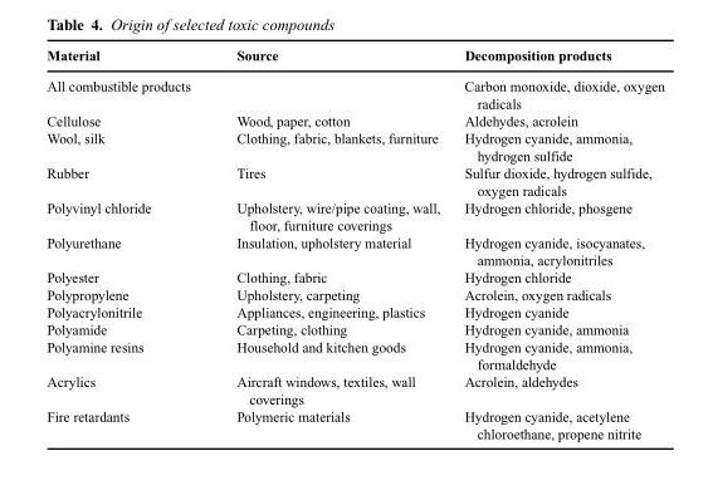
<table><thead><tr><td>Material</td><td>Source</td><td>Decomposition products</td></tr></thead><tbody><tr><td>All combustible products</td><td></td><td>Carbon monoxide, dioxide, oxygen radicals</td></tr><tr><td>Cellulose</td><td>Wood, paper, cotton</td><td>Aldehydes, acrolein</td></tr><tr><td>Wool, silk</td><td>Clothing, fabric, blankets, furniture</td><td>Hydrogen cyanide, ammonia, hydrogen sulfide</td></tr><tr><td>Rubber</td><td>Tires</td><td>Sulfur dioxide, hydrogen sulfide, oxygen radicals</td></tr><tr><td>Polyvinyl chloride</td><td>Upholstery, wire/pipe coating, wall, floor, furniture coverings</td><td>Hydrogen chloride, phosgene</td></tr><tr><td>Polyurethane</td><td>Insulation, upholstery material</td><td>Hydrogen cyanide, isocyanates, ammonia, acrylonitriles</td></tr><tr><td>Polyester</td><td>Clothing, fabric</td><td>Hydrogen chloride</td></tr><tr><td>Polypropylene</td><td>Upholstery, carpeting</td><td>Acrolein, oxygen radicals</td></tr><tr><td>Polyacrylonitrile</td><td>Appliances, engineering, plastics</td><td>Hydrogen cyanide</td></tr><tr><td>Polyamide</td><td>Carpeting, clothing</td><td>Hydrogen cyanide, ammonia</td></tr><tr><td>Polyamine resins</td><td>Household and kitchen goods</td><td>Hydrogen cyanide, ammonia, formaldehyde</td></tr><tr><td>Acrylics</td><td>Aircraft windows, textiles, wall coverings</td><td>Acrolein, aldehydes</td></tr><tr><td>Fire retardants</td><td>Polymeric materials</td><td>Hydrogen cyanide, acetylene chloroethane, propene nitrite</td></tr></tbody></table>